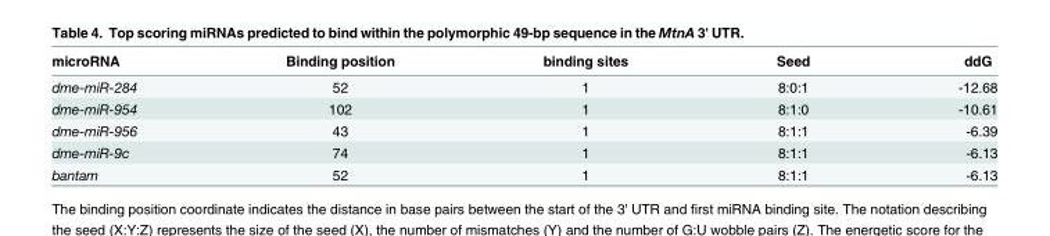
<table><thead><tr><td>microRNA</td><td>Binding position</td><td>binding sites</td><td>Seed</td><td>ddG</td></tr></thead><tbody><tr><td>dme-miR-284</td><td>52</td><td>1</td><td>8:0:1</td><td>-12.68</td></tr><tr><td>dme-miR-954</td><td>102</td><td>1</td><td>8:1:0</td><td>-10.61</td></tr><tr><td>dme-miR-956</td><td>43</td><td>1</td><td>8:1:1</td><td>-6.39</td></tr><tr><td>dme-miR-9c</td><td>74</td><td>1</td><td>8:1:1</td><td>-6.13</td></tr><tr><td>bantam</td><td>52</td><td>1</td><td>8:1:1</td><td>-6.13</td></tr></tbody></table>